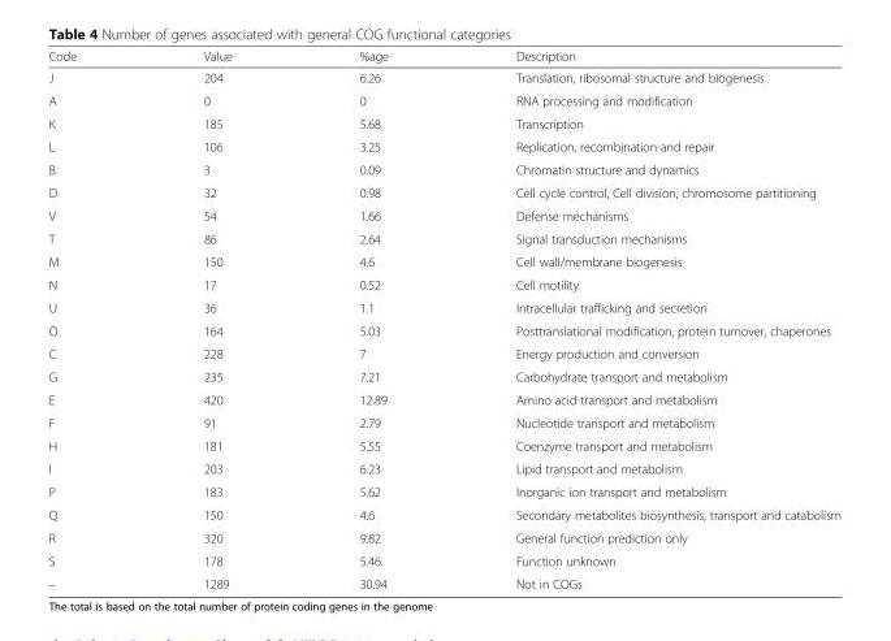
<table><thead><tr><td>Code</td><td>Value</td><td>%age</td><td>Description</td></tr></thead><tbody><tr><td>J</td><td>204</td><td>6.26</td><td>Translation, ribosomal structure and biogenesis</td></tr><tr><td>A</td><td>0</td><td>0</td><td>RNA processing and modification</td></tr><tr><td>K</td><td>185</td><td>5.68</td><td>Transcription</td></tr><tr><td>L</td><td>106</td><td>3.25</td><td>Replication, recombination and repair</td></tr><tr><td>B</td><td>3</td><td>0.09</td><td>Chromatin structure and dynamics</td></tr><tr><td>D</td><td>32</td><td>0.98</td><td>Cell cycle control, Cell division, chromosome partitioning</td></tr><tr><td>V</td><td>54</td><td>1.66</td><td>Defense mechanisms</td></tr><tr><td>T</td><td>86</td><td>2.64</td><td>Signal transduction mechanisms</td></tr><tr><td>M</td><td>150</td><td>4.6</td><td>Cell wall/membrane biogenesis</td></tr><tr><td>N</td><td>17</td><td>0.52</td><td>Cell motility</td></tr><tr><td>U</td><td>36</td><td>1.1</td><td>Intracellular trafficking and secretion</td></tr><tr><td>O</td><td>164</td><td>5.03</td><td>Posttranslational modification, protein turnover, chaperones</td></tr><tr><td>C</td><td>228</td><td>7</td><td>Energy production and conversion</td></tr><tr><td>G</td><td>235</td><td>7.21</td><td>Carbohydrate transport and metabolism</td></tr><tr><td>E</td><td>420</td><td>12.89</td><td>Amino acid transport and metabolism</td></tr><tr><td>F</td><td>91</td><td>2.79</td><td>Nucleotide transport and metabolism</td></tr><tr><td>H</td><td>181</td><td>5.55</td><td>Coenzyme transport and metabolism</td></tr><tr><td>I</td><td>203</td><td>6.23</td><td>Lipid transport and metabolism</td></tr><tr><td>P</td><td>183</td><td>5.62</td><td>Inorganic ion transport and metabolism</td></tr><tr><td>Q</td><td>150</td><td>4.6</td><td>Secondary metabolites biosynthesis, transport and catabolism</td></tr><tr><td>R</td><td>320</td><td>9.82</td><td>General function prediction only</td></tr><tr><td>S</td><td>178</td><td>5.46</td><td>Function unknown</td></tr><tr><td>–</td><td>1289</td><td>30.94</td><td>Not in COGs</td></tr></tbody></table>